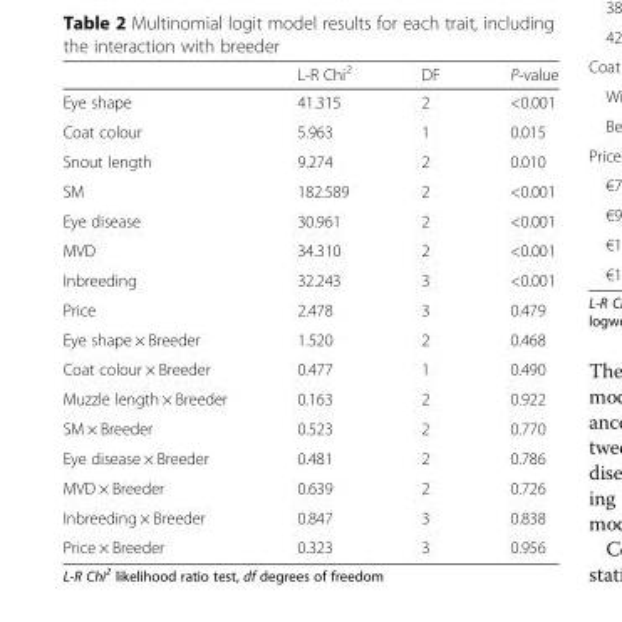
<table><thead><tr><td></td><td>L-R Chi<sup>2</sup></td><td>DF</td><td>P-value</td></tr></thead><tbody><tr><td>Eye shape</td><td>41.315</td><td>2</td><td>&lt;0.001</td></tr><tr><td>Coat colour</td><td>5.963</td><td>1</td><td>0.015</td></tr><tr><td>Snout length</td><td>9.274</td><td>2</td><td>0.010</td></tr><tr><td>SM</td><td>182.589</td><td>2</td><td>&lt;0.001</td></tr><tr><td>Eye disease</td><td>30.961</td><td>2</td><td>&lt;0.001</td></tr><tr><td>MVD</td><td>34.310</td><td>2</td><td>&lt;0.001</td></tr><tr><td>Inbreeding</td><td>32.243</td><td>3</td><td>&lt;0.001</td></tr><tr><td>Price</td><td>2.478</td><td>3</td><td>0.479</td></tr><tr><td>Eye shape × Breeder</td><td>1.520</td><td>2</td><td>0.468</td></tr><tr><td>Coat colour × Breeder</td><td>0.477</td><td>1</td><td>0.490</td></tr><tr><td>Muzzle length × Breeder</td><td>0.163</td><td>2</td><td>0.922</td></tr><tr><td>SM × Breeder</td><td>0.523</td><td>2</td><td>0.770</td></tr><tr><td>Eye disease × Breeder</td><td>0.481</td><td>2</td><td>0.786</td></tr><tr><td>MVD × Breeder</td><td>0.639</td><td>2</td><td>0.726</td></tr><tr><td>Inbreeding × Breeder</td><td>0.847</td><td>3</td><td>0.838</td></tr><tr><td>Price × Breeder</td><td>0.323</td><td>3</td><td>0.956</td></tr></tbody></table>